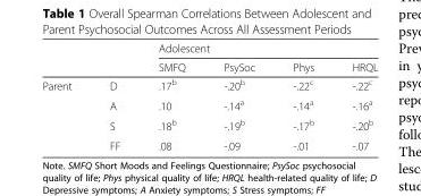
<table><thead><tr><td rowspan="2"></td><td rowspan="2"></td><td colspan="4">Adolescent</td></tr><tr><td>SMFQ</td><td>PsySoc</td><td>Phys</td><td>HRQL</td></tr></thead><tbody><tr><td rowspan="4">Parent</td><td>D</td><td>.17<sup>b</sup></td><td>-.20<sup>b</sup></td><td>-.22<sup>c</sup></td><td>-.22<sup>c</sup></td></tr><tr><td>A</td><td>.10</td><td>-.14<sup>a</sup></td><td>-.14<sup>a</sup></td><td>-.16<sup>a</sup></td></tr><tr><td>S</td><td>.18<sup>b</sup></td><td>-.19<sup>b</sup></td><td>-.17<sup>b</sup></td><td>-.20<sup>b</sup></td></tr><tr><td>FF</td><td>.08</td><td>-.09</td><td>-.01</td><td>-.07</td></tr></tbody></table>